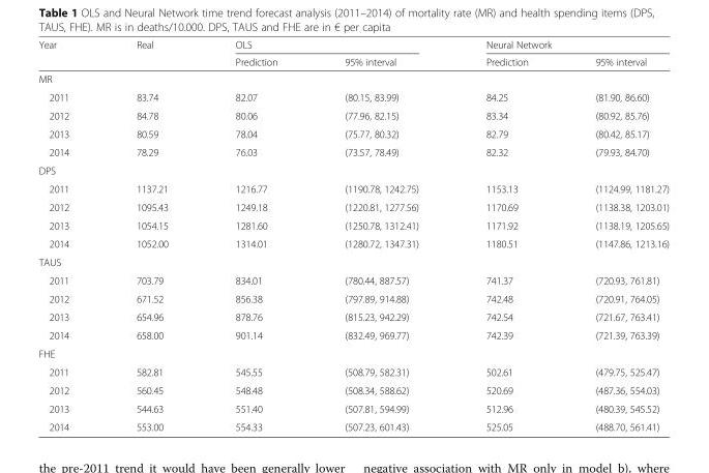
<table><thead><tr><td rowspan="2">Year</td><td rowspan="2">Real</td><td colspan="2">OLS</td><td colspan="2">Neural Network</td></tr><tr><td>Prediction</td><td>95% interval</td><td>Prediction</td><td>95% interval</td></tr></thead><tbody><tr><td colspan="6">MR</td></tr><tr><td>2011</td><td>83.74</td><td>82.07</td><td>(80.15, 83.99)</td><td>84.25</td><td>(81.90, 86.60)</td></tr><tr><td>2012</td><td>84.78</td><td>80.06</td><td>(77.96, 82.15)</td><td>83.34</td><td>(80.92, 85.76)</td></tr><tr><td>2013</td><td>80.59</td><td>78.04</td><td>(75.77, 80.32)</td><td>82.79</td><td>(80.42, 85.17)</td></tr><tr><td>2014</td><td>78.29</td><td>76.03</td><td>(73.57, 78.49)</td><td>82.32</td><td>(79.93, 84.70)</td></tr><tr><td colspan="6">DPS</td></tr><tr><td>2011</td><td>1137.21</td><td>1216.77</td><td>(1190.78, 1242.75)</td><td>1153.13</td><td>(1124.99, 1181.27)</td></tr><tr><td>2012</td><td>1095.43</td><td>1249.18</td><td>(1220.81, 1277.56)</td><td>1170.69</td><td>(1138.38, 1203.01)</td></tr><tr><td>2013</td><td>1054.15</td><td>1281.60</td><td>(1250.78, 1312.41)</td><td>1171.92</td><td>(1138.19, 1205.65)</td></tr><tr><td>2014</td><td>1052.00</td><td>1314.01</td><td>(1280.72, 1347.31)</td><td>1180.51</td><td>(1147.86, 1213.16)</td></tr><tr><td colspan="6">TAUS</td></tr><tr><td>2011</td><td>703.79</td><td>834.01</td><td>(780.44, 887.57)</td><td>741.37</td><td>(720.93, 761.81)</td></tr><tr><td>2012</td><td>671.52</td><td>856.38</td><td>(797.89, 914.88)</td><td>742.48</td><td>(720.91, 764.05)</td></tr><tr><td>2013</td><td>654.96</td><td>878.76</td><td>(815.23, 942.29)</td><td>742.54</td><td>(721.67, 763.41)</td></tr><tr><td>2014</td><td>658.00</td><td>901.14</td><td>(832.49, 969.77)</td><td>742.39</td><td>(721.39, 763.39)</td></tr><tr><td colspan="6">FHE</td></tr><tr><td>2011</td><td>582.81</td><td>545.55</td><td>(508.79, 582.31)</td><td>502.61</td><td>(479.75, 525.47)</td></tr><tr><td>2012</td><td>560.45</td><td>548.48</td><td>(508.34, 588.62)</td><td>520.69</td><td>(487.36, 554.03)</td></tr><tr><td>2013</td><td>544.63</td><td>551.40</td><td>(507.81, 594.99)</td><td>512.96</td><td>(480.39, 545.52)</td></tr><tr><td>2014</td><td>553.00</td><td>554.33</td><td>(507.23, 601.43)</td><td>525.05</td><td>(488.70, 561.41)</td></tr></tbody></table>